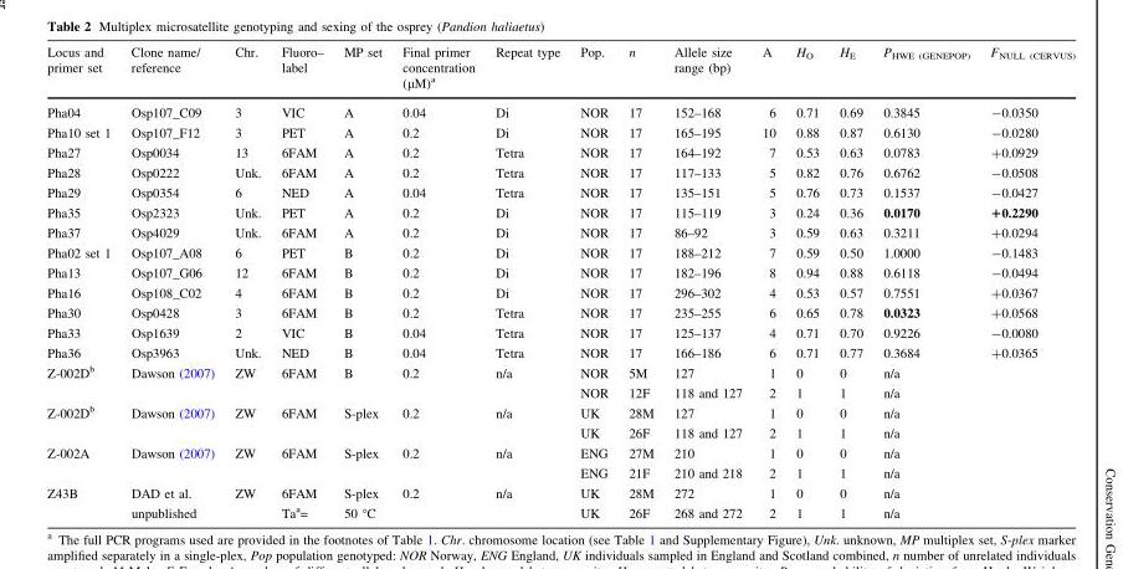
<table><thead><tr><td>Locus and primer set</td><td>Clone name/ reference</td><td>Chr.</td><td>Fluoro– label</td><td>MP set</td><td>Final primer concentration (µM)<sup>a</sup></td><td>Repeat type</td><td>Pop.</td><td>n</td><td>Allele size range (bp)</td><td>A</td><td>H<sub>O</sub></td><td>H<sub>E</sub></td><td>P<sub>HWE (GENEPOP)</sub></td><td>F<sub>NULL (CERVUS)</sub></td></tr></thead><tbody><tr><td>Pha04</td><td>Osp107_C09</td><td>3</td><td>VIC</td><td>A</td><td>0.04</td><td>Di</td><td>NOR</td><td>17</td><td>152–168</td><td>6</td><td>0.71</td><td>0.69</td><td>0.3845</td><td>-0.0350</td></tr><tr><td>Pha10 set 1</td><td>Osp107_F12</td><td>3</td><td>PET</td><td>A</td><td>0.2</td><td>Di</td><td>NOR</td><td>17</td><td>165–195</td><td>10</td><td>0.88</td><td>0.87</td><td>0.6130</td><td>-0.0280</td></tr><tr><td>Pha27</td><td>Osp0034</td><td>13</td><td>6FAM</td><td>A</td><td>0.2</td><td>Tetra</td><td>NOR</td><td>17</td><td>164–192</td><td>7</td><td>0.53</td><td>0.63</td><td>0.0783</td><td>+0.0929</td></tr><tr><td>Pha28</td><td>Osp0222</td><td>Unk.</td><td>6FAM</td><td>A</td><td>0.2</td><td>Tetra</td><td>NOR</td><td>17</td><td>117–133</td><td>5</td><td>0.82</td><td>0.76</td><td>0.6762</td><td>-0.0508</td></tr><tr><td>Pha29</td><td>Osp0354</td><td>6</td><td>NED</td><td>A</td><td>0.04</td><td>Tetra</td><td>NOR</td><td>17</td><td>135–151</td><td>5</td><td>0.76</td><td>0.73</td><td>0.1537</td><td>-0.0427</td></tr><tr><td>Pha35</td><td>Osp2323</td><td>Unk.</td><td>PET</td><td>A</td><td>0.2</td><td>Di</td><td>NOR</td><td>17</td><td>115–119</td><td>3</td><td>0.24</td><td>0.36</td><td>0.0170</td><td>+0.2290</td></tr><tr><td>Pha37</td><td>Osp4029</td><td>Unk.</td><td>6FAM</td><td>A</td><td>0.2</td><td>Di</td><td>NOR</td><td>17</td><td>86–92</td><td>3</td><td>0.59</td><td>0.63</td><td>0.3211</td><td>+0.0294</td></tr><tr><td>Pha02 set 1</td><td>Osp107_A08</td><td>6</td><td>PET</td><td>B</td><td>0.2</td><td>Di</td><td>NOR</td><td>17</td><td>188–212</td><td>7</td><td>0.59</td><td>0.50</td><td>1.0000</td><td>-0.1483</td></tr><tr><td>Pha13</td><td>Osp107_G06</td><td>12</td><td>6FAM</td><td>B</td><td>0.2</td><td>Di</td><td>NOR</td><td>17</td><td>182–196</td><td>8</td><td>0.94</td><td>0.88</td><td>0.6118</td><td>-0.0494</td></tr><tr><td>Pha16</td><td>Osp108_C02</td><td>4</td><td>6FAM</td><td>B</td><td>0.2</td><td>Di</td><td>NOR</td><td>17</td><td>296–302</td><td>4</td><td>0.53</td><td>0.57</td><td>0.7551</td><td>+0.0367</td></tr><tr><td>Pha30</td><td>Osp0428</td><td>3</td><td>6FAM</td><td>B</td><td>0.2</td><td>Tetra</td><td>NOR</td><td>17</td><td>235–255</td><td>6</td><td>0.65</td><td>0.78</td><td>0.0323</td><td>+0.0568</td></tr><tr><td>Pha33</td><td>Osp1639</td><td>2</td><td>VIC</td><td>B</td><td>0.04</td><td>Tetra</td><td>NOR</td><td>17</td><td>125–137</td><td>4</td><td>0.71</td><td>0.70</td><td>0.9226</td><td>-0.0080</td></tr><tr><td>Pha36</td><td>Osp3963</td><td>Unk.</td><td>NED</td><td>B</td><td>0.04</td><td>Tetra</td><td>NOR</td><td>17</td><td>166–186</td><td>6</td><td>0.71</td><td>0.77</td><td>0.3684</td><td>+0.0365</td></tr><tr><td rowspan="2">Z-002D<sup>b</sup></td><td>Dawson (2007)</td><td>ZW</td><td>6FAM</td><td>B</td><td>0.2</td><td>n/a</td><td>NOR</td><td>5M</td><td>127</td><td>1</td><td>0</td><td>0</td><td>n/a</td><td></td></tr><tr><td></td><td></td><td></td><td></td><td></td><td></td><td>NOR</td><td>12F</td><td>118 and 127</td><td>2</td><td>1</td><td>1</td><td>n/a</td><td></td></tr><tr><td rowspan="2">Z-002D<sup>b</sup></td><td>Dawson (2007)</td><td>ZW</td><td>6FAM</td><td>S-plex</td><td>0.2</td><td>n/a</td><td>UK</td><td>28M</td><td>127</td><td>1</td><td>0</td><td>0</td><td>n/a</td><td></td></tr><tr><td></td><td></td><td></td><td></td><td></td><td></td><td>UK</td><td>26F</td><td>118 and 127</td><td>2</td><td>1</td><td>1</td><td>n/a</td><td></td></tr><tr><td rowspan="2">Z-002A</td><td>Dawson (2007)</td><td>ZW</td><td>6FAM</td><td>S-plex</td><td>0.2</td><td>n/a</td><td>ENG</td><td>27M</td><td>210</td><td>1</td><td>0</td><td>0</td><td>n/a</td><td></td></tr><tr><td></td><td></td><td></td><td></td><td></td><td></td><td>ENG</td><td>21F</td><td>210 and 218</td><td>2</td><td>1</td><td>1</td><td>n/a</td><td></td></tr><tr><td rowspan="2">Z43B</td><td>DAD et al.</td><td>ZW</td><td>6FAM</td><td>S-plex</td><td>0.2</td><td>n/a</td><td>UK</td><td>28M</td><td>272</td><td>1</td><td>0</td><td>0</td><td>n/a</td><td></td></tr><tr><td>unpublished</td><td></td><td>Ta<sup>a</sup>=</td><td>50 °C</td><td></td><td></td><td>UK</td><td>26F</td><td>268 and 272</td><td>2</td><td>1</td><td>1</td><td>n/a</td><td></td></tr></tbody></table>